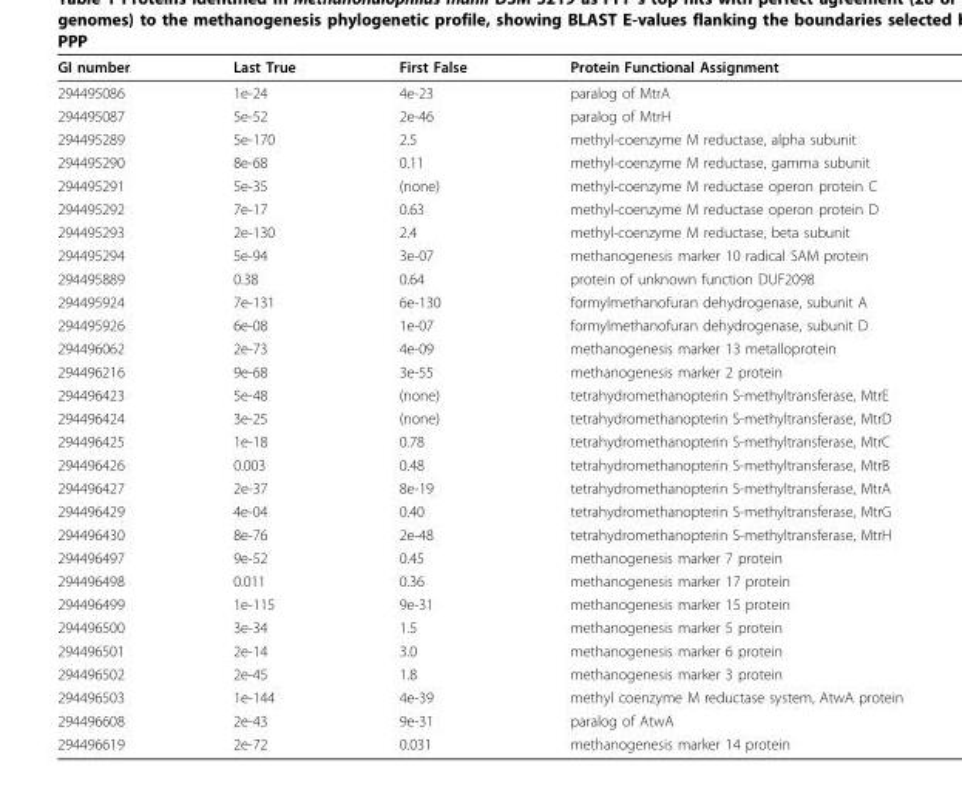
<table><thead><tr><td>GI number</td><td>Last True</td><td>First False</td><td>Protein Functional Assignment</td></tr></thead><tbody><tr><td>294495086</td><td>1e-24</td><td>4e-23</td><td>paralog of MtrA</td></tr><tr><td>294495087</td><td>5e-52</td><td>2e-46</td><td>paralog of MtrH</td></tr><tr><td>294495289</td><td>5e-170</td><td>2.5</td><td>methyl-coenzyme M reductase, alpha subunit</td></tr><tr><td>294495290</td><td>8e-68</td><td>0.11</td><td>methyl-coenzyme M reductase, gamma subunit</td></tr><tr><td>294495291</td><td>5e-35</td><td>(none)</td><td>methyl-coenzyme M reductase operon protein C</td></tr><tr><td>294495292</td><td>7e-17</td><td>0.63</td><td>methyl-coenzyme M reductase operon protein D</td></tr><tr><td>294495293</td><td>2e-130</td><td>2.4</td><td>methyl-coenzyme M reductase, beta subunit</td></tr><tr><td>294495294</td><td>5e-94</td><td>3e-07</td><td>methanogenesis marker 10 radical SAM protein</td></tr><tr><td>294495889</td><td>0.38</td><td>0.64</td><td>protein of unknown function DUF2098</td></tr><tr><td>294495924</td><td>7e-131</td><td>6e-130</td><td>formylmethanofuran dehydrogenase, subunit A</td></tr><tr><td>294495926</td><td>6e-08</td><td>1e-07</td><td>formylmethanofuran dehydrogenase, subunit D</td></tr><tr><td>294496062</td><td>2e-73</td><td>4e-09</td><td>methanogenesis marker 13 metalloprotein</td></tr><tr><td>294496216</td><td>9e-68</td><td>3e-55</td><td>methanogenesis marker 2 protein</td></tr><tr><td>294496423</td><td>5e-48</td><td>(none)</td><td>tetrahydromethanopterin S-methyltransferase, MtrE</td></tr><tr><td>294496424</td><td>3e-25</td><td>(none)</td><td>tetrahydromethanopterin S-methyltransferase, MtrD</td></tr><tr><td>294496425</td><td>1e-18</td><td>0.78</td><td>tetrahydromethanopterin S-methyltransferase, MtrC</td></tr><tr><td>294496426</td><td>0.003</td><td>0.48</td><td>tetrahydromethanopterin S-methyltransferase, MtrB</td></tr><tr><td>294496427</td><td>2e-37</td><td>8e-19</td><td>tetrahydromethanopterin S-methyltransferase, MtrA</td></tr><tr><td>294496429</td><td>4e-04</td><td>0.40</td><td>tetrahydromethanopterin S-methyltransferase, MtrG</td></tr><tr><td>294496430</td><td>8e-76</td><td>2e-48</td><td>tetrahydromethanopterin S-methyltransferase, MtrH</td></tr><tr><td>294496497</td><td>9e-52</td><td>0.45</td><td>methanogenesis marker 7 protein</td></tr><tr><td>294496498</td><td>0.011</td><td>0.36</td><td>methanogenesis marker 17 protein</td></tr><tr><td>294496499</td><td>1e-115</td><td>9e-31</td><td>methanogenesis marker 15 protein</td></tr><tr><td>294496500</td><td>3e-34</td><td>1.5</td><td>methanogenesis marker 5 protein</td></tr><tr><td>294496501</td><td>2e-14</td><td>3.0</td><td>methanogenesis marker 6 protein</td></tr><tr><td>294496502</td><td>2e-45</td><td>1.8</td><td>methanogenesis marker 3 protein</td></tr><tr><td>294496503</td><td>1e-144</td><td>4e-39</td><td>methyl coenzyme M reductase system, AtwA protein</td></tr><tr><td>294496608</td><td>2e-43</td><td>9e-31</td><td>paralog of AtwA</td></tr><tr><td>294496619</td><td>2e-72</td><td>0.031</td><td>methanogenesis marker 14 protein</td></tr></tbody></table>